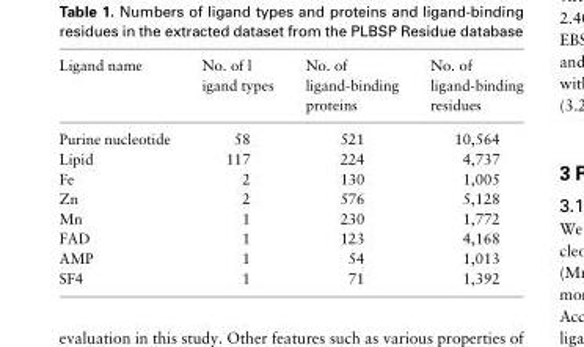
<table><thead><tr><td>Ligand name</td><td>No. of l igand types</td><td>No. of ligand-binding proteins</td><td>No. of ligand-binding residues</td></tr></thead><tbody><tr><td>Purine nucleotide</td><td>58</td><td>521</td><td>10,564</td></tr><tr><td>Lipid</td><td>117</td><td>224</td><td>4,737</td></tr><tr><td>Fe</td><td>2</td><td>130</td><td>1,005</td></tr><tr><td>Zn</td><td>2</td><td>576</td><td>5,128</td></tr><tr><td>Mn</td><td>1</td><td>230</td><td>1,772</td></tr><tr><td>FAD</td><td>1</td><td>123</td><td>4,168</td></tr><tr><td>AMP</td><td>1</td><td>54</td><td>1,013</td></tr><tr><td>SF4</td><td>1</td><td>71</td><td>1,392</td></tr></tbody></table>